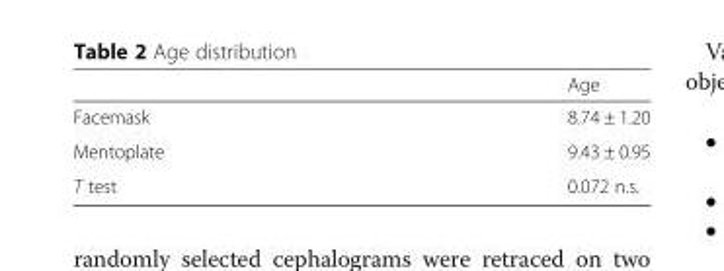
<table><thead><tr><td></td><td>Age</td></tr></thead><tbody><tr><td>Facemask</td><td>8.74 ± 1.20</td></tr><tr><td>Mentoplate</td><td>9.43 ± 0.95</td></tr><tr><td>T test</td><td>0.072 n.s.</td></tr></tbody></table>